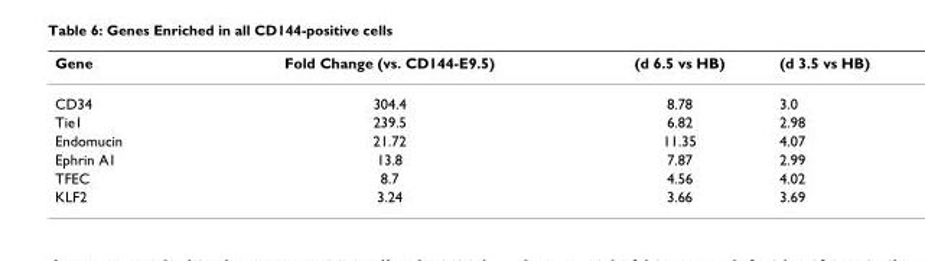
<table><thead><tr><td>Gene</td><td>Fold Change (vs. CD144-E9.5)</td><td>(d 6.5 vs HB)</td><td>(d 3.5 vs HB)</td></tr></thead><tbody><tr><td>CD34</td><td>304.4</td><td>8.78</td><td>3.0</td></tr><tr><td>Tie1</td><td>239.5</td><td>6.82</td><td>2.98</td></tr><tr><td>Endomucin</td><td>21.72</td><td>11.35</td><td>4.07</td></tr><tr><td>Ephrin A1</td><td>13.8</td><td>7.87</td><td>2.99</td></tr><tr><td>TFEC</td><td>8.7</td><td>4.56</td><td>4.02</td></tr><tr><td>KLF2</td><td>3.24</td><td>3.66</td><td>3.69</td></tr></tbody></table>